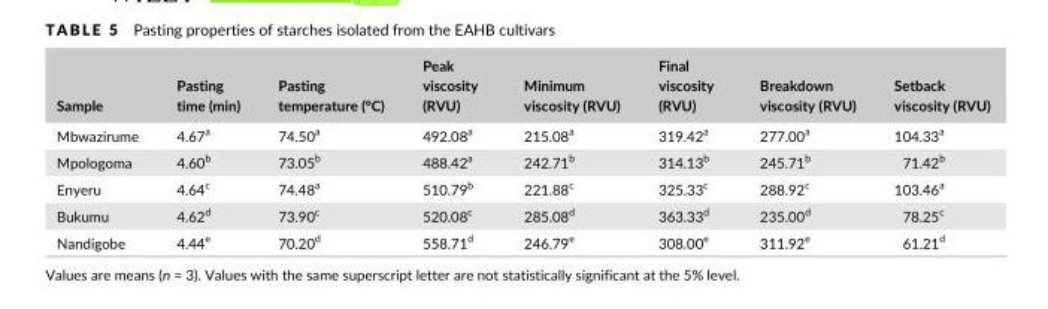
<table><thead><tr><td>Sample</td><td>Pasting time (min)</td><td>Pasting temperature (°C)</td><td>Peak viscosity (RVU)</td><td>Minimum viscosity (RVU)</td><td>Final viscosity (RVU)</td><td>Breakdown viscosity (RVU)</td><td>Setback viscosity (RVU)</td></tr></thead><tbody><tr><td>Mbwazirume</td><td>4.67<sup>a</sup></td><td>74.50<sup>a</sup></td><td>492.08<sup>a</sup></td><td>215.08<sup>a</sup></td><td>319.42<sup>a</sup></td><td>277.00<sup>a</sup></td><td>104.33<sup>a</sup></td></tr><tr><td>Mpologoma</td><td>4.60<sup>b</sup></td><td>73.05<sup>b</sup></td><td>488.42<sup>a</sup></td><td>242.71<sup>b</sup></td><td>314.13<sup>b</sup></td><td>245.71<sup>b</sup></td><td>71.42<sup>b</sup></td></tr><tr><td>Enyeru</td><td>4.64<sup>c</sup></td><td>74.48<sup>a</sup></td><td>510.79<sup>b</sup></td><td>221.88<sup>c</sup></td><td>325.33<sup>c</sup></td><td>288.92<sup>c</sup></td><td>103.46<sup>a</sup></td></tr><tr><td>Bukumu</td><td>4.62<sup>d</sup></td><td>73.90<sup>c</sup></td><td>520.08<sup>c</sup></td><td>285.08<sup>d</sup></td><td>363.33<sup>d</sup></td><td>235.00<sup>d</sup></td><td>78.25<sup>c</sup></td></tr><tr><td>Nandigobe</td><td>4.44<sup>e</sup></td><td>70.20<sup>d</sup></td><td>558.71<sup>d</sup></td><td>246.79<sup>e</sup></td><td>308.00<sup>e</sup></td><td>311.92<sup>e</sup></td><td>61.21<sup>d</sup></td></tr></tbody></table>